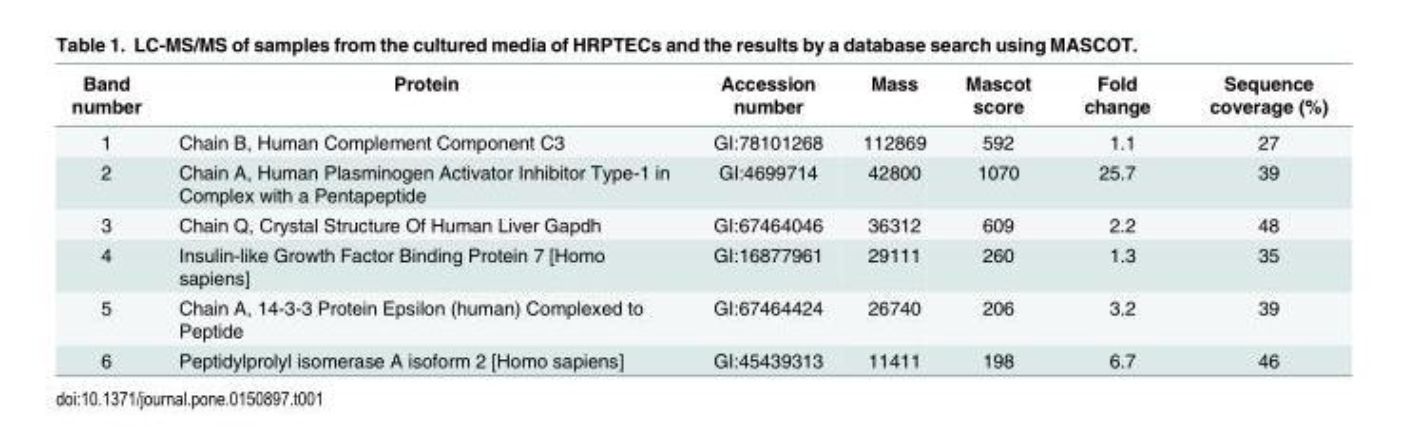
<table><thead><tr><td>Band number</td><td>Protein</td><td>Accession number</td><td>Mass</td><td>Mascot score</td><td>Fold change</td><td>Sequence coverage (%)</td></tr></thead><tbody><tr><td>1</td><td>Chain B, Human Complement Component C3</td><td>GI:78101268</td><td>112869</td><td>592</td><td>1.1</td><td>27</td></tr><tr><td>2</td><td>Chain A, Human Plasminogen Activator Inhibitor Type-1 in Complex with a Pentapeptide</td><td>GI:4699714</td><td>42800</td><td>1070</td><td>25.7</td><td>39</td></tr><tr><td>3</td><td>Chain Q, Crystal Structure Of Human Liver Gapdh</td><td>GI:67464046</td><td>36312</td><td>609</td><td>2.2</td><td>48</td></tr><tr><td>4</td><td>Insulin-like Growth Factor Binding Protein 7 [Homo sapiens]</td><td>GI:16877961</td><td>29111</td><td>260</td><td>1.3</td><td>35</td></tr><tr><td>5</td><td>Chain A, 14-3-3 Protein Epsilon (human) Complexed to Peptide</td><td>GI:67464424</td><td>26740</td><td>206</td><td>3.2</td><td>39</td></tr><tr><td>6</td><td>Peptidylprolyl isomerase A isoform 2 [Homo sapiens]</td><td>GI:45439313</td><td>11411</td><td>198</td><td>6.7</td><td>46</td></tr></tbody></table>